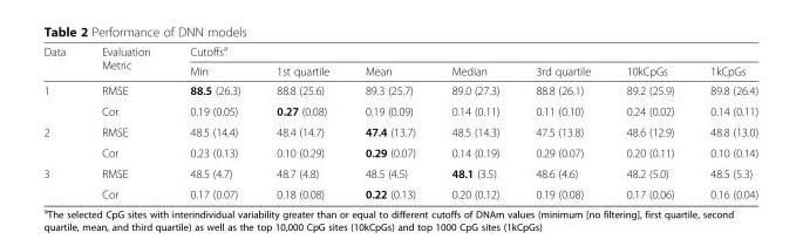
<table><thead><tr><td rowspan="2">Data</td><td rowspan="2">Evaluation Metric</td><td colspan="7">Cutoffs<sup>a</sup></td></tr><tr><td>Min</td><td>1st quartile</td><td>Mean</td><td>Median</td><td>3rd quartile</td><td>10kCpGs</td><td>1kCpGs</td></tr></thead><tbody><tr><td rowspan="2">1</td><td>RMSE</td><td>88.5 (26.3)</td><td>88.8 (25.6)</td><td>89.3 (25.7)</td><td>89.0 (27.3)</td><td>88.8 (26.1)</td><td>89.2 (25.9)</td><td>89.8 (26.4)</td></tr><tr><td>Cor</td><td>0.19 (0.05)</td><td>0.27 (0.08)</td><td>0.19 (0.09)</td><td>0.14 (0.11)</td><td>0.11 (0.10)</td><td>0.24 (0.02)</td><td>0.14 (0.11)</td></tr><tr><td rowspan="2">2</td><td>RMSE</td><td>48.5 (14.4)</td><td>48.4 (14.7)</td><td>47.4 (13.7)</td><td>48.5 (14.3)</td><td>47.5 (13.8)</td><td>48.6 (12.9)</td><td>48.8 (13.0)</td></tr><tr><td>Cor</td><td>0.23 (0.13)</td><td>0.10 (0.29)</td><td>0.29 (0.07)</td><td>0.14 (0.19)</td><td>0.29 (0.07)</td><td>0.20 (0.11)</td><td>0.10 (0.14)</td></tr><tr><td rowspan="2">3</td><td>RMSE</td><td>48.5 (4.7)</td><td>48.7 (4.8)</td><td>48.5 (4.5)</td><td>48.1 (3.5)</td><td>48.6 (4.6)</td><td>48.2 (5.0)</td><td>48.5 (5.3)</td></tr><tr><td>Cor</td><td>0.17 (0.07)</td><td>0.18 (0.08)</td><td>0.22 (0.13)</td><td>0.20 (0.12)</td><td>0.19 (0.08)</td><td>0.17 (0.06)</td><td>0.16 (0.04)</td></tr></tbody></table>